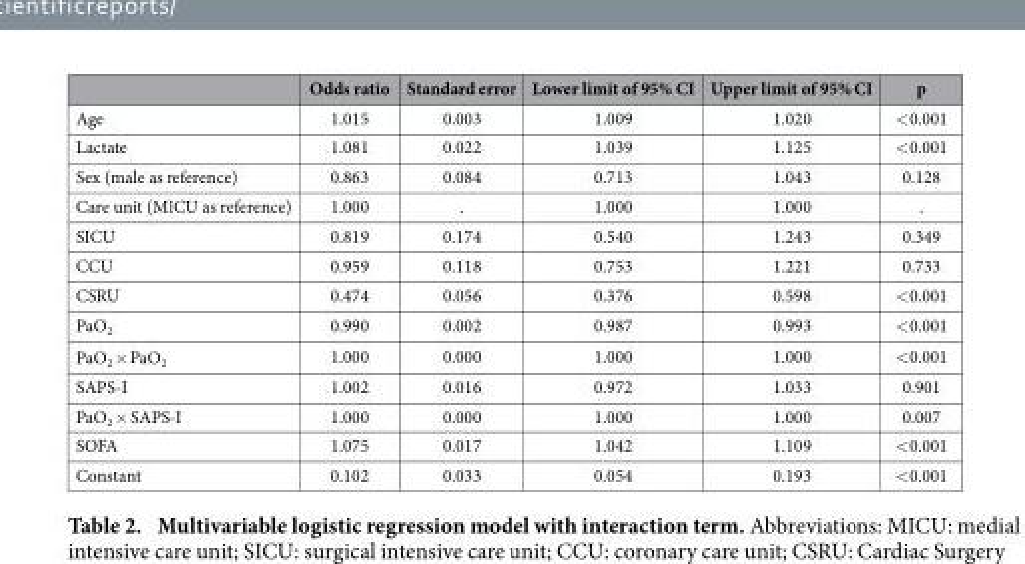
<table><thead><tr><td></td><td>Odds ratio</td><td>Standard error</td><td>Lower limit of 95% CI</td><td>Upper limit of 95% CI</td><td>p</td></tr></thead><tbody><tr><td>Age</td><td>1.015</td><td>0.003</td><td>1.009</td><td>1.020</td><td>&lt; 0.001</td></tr><tr><td>Lactate</td><td>1.081</td><td>0.022</td><td>1.039</td><td>1.125</td><td>&lt; 0.001</td></tr><tr><td>Sex (male as reference)</td><td>0.863</td><td>0.084</td><td>0.713</td><td>1.043</td><td>0.128</td></tr><tr><td>Care unit (MICU as reference)</td><td>1.000</td><td>.</td><td>1.000</td><td>1.000</td><td>.</td></tr><tr><td>SICU</td><td>0.819</td><td>0.174</td><td>0.540</td><td>1.243</td><td>0.349</td></tr><tr><td>CCU</td><td>0.959</td><td>0.118</td><td>0.753</td><td>1.221</td><td>0.733</td></tr><tr><td>CSRU</td><td>0.474</td><td>0.056</td><td>0.376</td><td>0.598</td><td>&lt; 0.001</td></tr><tr><td>PaO<sub>2</sub></td><td>0.990</td><td>0.002</td><td>0.987</td><td>0.993</td><td>&lt; 0.001</td></tr><tr><td>PaO2 × PaO2</td><td>1.000</td><td>0.000</td><td>1.000</td><td>1.000</td><td>&lt; 0.001</td></tr><tr><td>SAPS-I</td><td>1.002</td><td>0.016</td><td>0.972</td><td>1.033</td><td>0.901</td></tr><tr><td>PaO<sub>2</sub> × SAPS-I</td><td>1.000</td><td>0.000</td><td>1.000</td><td>1.000</td><td>0.007</td></tr><tr><td>SOFA</td><td>1.075</td><td>0.017</td><td>1.042</td><td>1.109</td><td>&lt; 0.001</td></tr><tr><td>Constant</td><td>0.102</td><td>0.033</td><td>0.054</td><td>0.193</td><td>&lt; 0.001</td></tr></tbody></table>